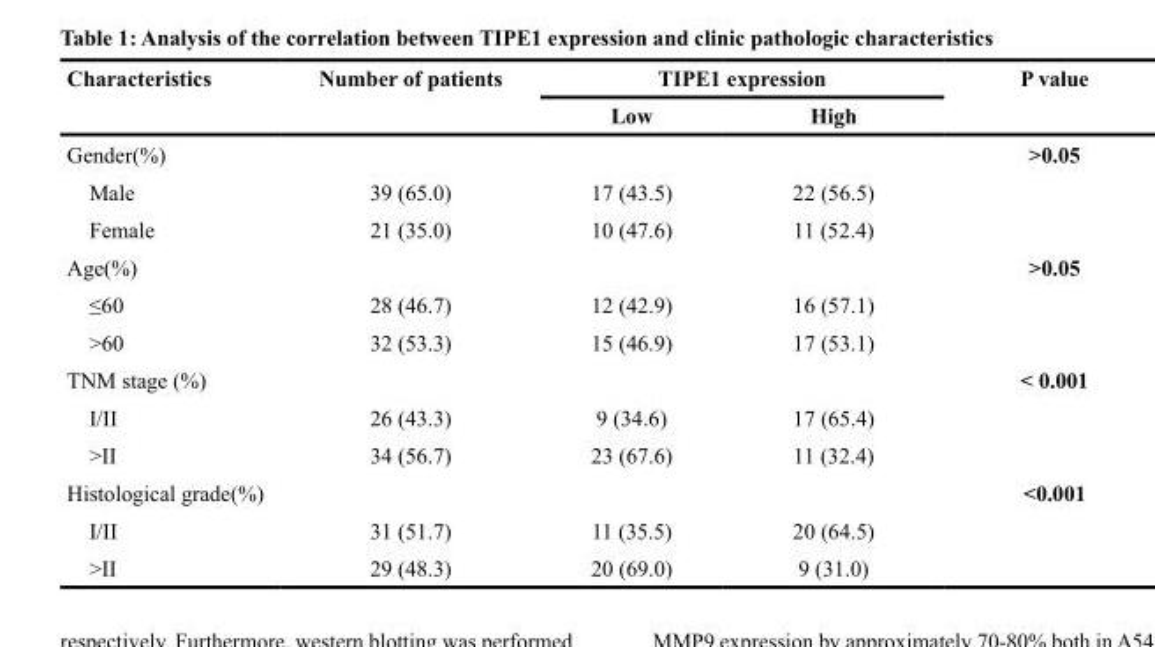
<table><thead><tr><td rowspan="2">Characteristics</td><td rowspan="2">Number of patients</td><td colspan="2">TIPE1 expression</td><td rowspan="2">P value</td></tr><tr><td>Low</td><td>High</td></tr></thead><tbody><tr><td>Gender(%)</td><td></td><td></td><td></td><td>&gt;0.05</td></tr><tr><td>Male</td><td>39 (65.0)</td><td>17 (43.5)</td><td>22 (56.5)</td><td></td></tr><tr><td>Female</td><td>21 (35.0)</td><td>10 (47.6)</td><td>11 (52.4)</td><td></td></tr><tr><td>Age(%)</td><td></td><td></td><td></td><td>&gt;0.05</td></tr><tr><td>≤60</td><td>28 (46.7)</td><td>12 (42.9)</td><td>16 (57.1)</td><td></td></tr><tr><td>&gt;60</td><td>32 (53.3)</td><td>15 (46.9)</td><td>17 (53.1)</td><td></td></tr><tr><td>TNM stage (%)</td><td></td><td></td><td></td><td>&lt; 0.001</td></tr><tr><td>I/II</td><td>26 (43.3)</td><td>9 (34.6)</td><td>17 (65.4)</td><td></td></tr><tr><td>&gt;II</td><td>34 (56.7)</td><td>23 (67.6)</td><td>11 (32.4)</td><td></td></tr><tr><td>Histological grade(%)</td><td></td><td></td><td></td><td>&lt;0.001</td></tr><tr><td>I/II</td><td>31 (51.7)</td><td>11 (35.5)</td><td>20 (64.5)</td><td></td></tr><tr><td>&gt;II</td><td>29 (48.3)</td><td>20 (69.0)</td><td>9 (31.0)</td><td></td></tr></tbody></table>